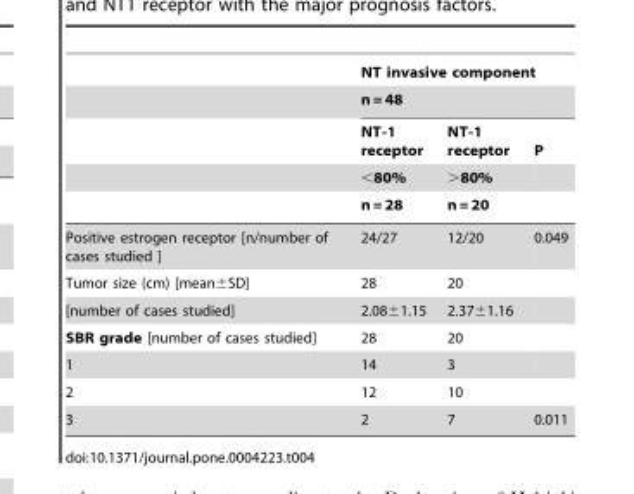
<table><thead><tr><td rowspan="5"></td><td rowspan="2" colspan="3">NT invasive component n = 48</td></tr><tr></tr><tr><td rowspan="3">NT-1 receptor &lt;80% n = 28</td><td rowspan="3">NT-1 receptor &gt;80% n = 20</td><td rowspan="3">P</td></tr><tr></tr><tr></tr></thead><tbody><tr><td>Positive estrogen receptor [n/number of cases studied ]</td><td>24/27</td><td>12/20</td><td>0.049</td></tr><tr><td>Tumor size (cm) [mean±SD]</td><td>28</td><td>20</td><td></td></tr><tr><td>[number of cases studied]</td><td>2.08±1.15</td><td>2.37±1.16</td><td></td></tr><tr><td>SBR grade [number of cases studied]</td><td>28</td><td>20</td><td></td></tr><tr><td>1</td><td>14</td><td>3</td><td></td></tr><tr><td>2</td><td>12</td><td>10</td><td></td></tr><tr><td>3</td><td>2</td><td>7</td><td>0.011</td></tr></tbody></table>